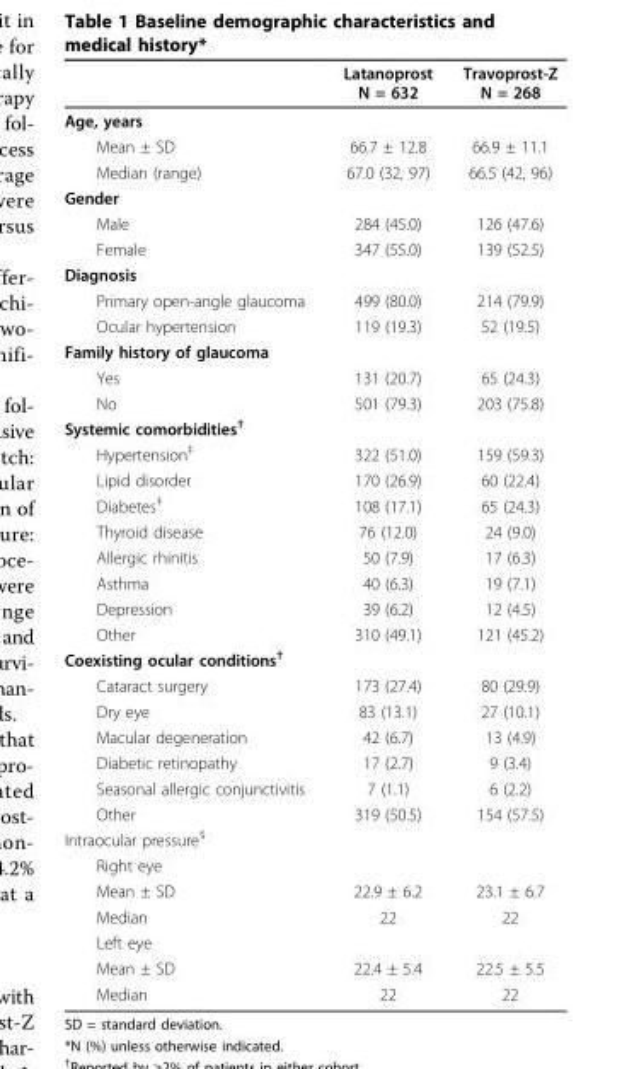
<table><thead><tr><td></td><td>Latanoprost N = 632</td><td>Travoprost-Z N = 268</td></tr></thead><tbody><tr><td colspan="3">Age, years</td></tr><tr><td>Mean ± SD</td><td>66.7 ± 12.8</td><td>66.9 ± 11.1</td></tr><tr><td>Median (range)</td><td>67.0 (32, 97)</td><td>66.5 (42, 96)</td></tr><tr><td colspan="3">Gender</td></tr><tr><td>Male</td><td>284 (45.0)</td><td>126 (47.6)</td></tr><tr><td>Female</td><td>347 (55.0)</td><td>139 (52.5)</td></tr><tr><td colspan="3">Diagnosis</td></tr><tr><td>Primary open-angle glaucoma</td><td>499 (80.0)</td><td>214 (79.9)</td></tr><tr><td>Ocular hypertension</td><td>119 (19.3)</td><td>52 (19.5)</td></tr><tr><td colspan="3">Family history of glaucoma</td></tr><tr><td>Yes</td><td>131 (20.7)</td><td>65 (24.3)</td></tr><tr><td>No</td><td>501 (79.3)</td><td>203 (75.8)</td></tr><tr><td colspan="3">Systemic comorbidities<sup>†</sup></td></tr><tr><td>Hypertension<sup>‡</sup></td><td>322 (51.0)</td><td>159 (59.3)</td></tr><tr><td>Lipid disorder</td><td>170 (26.9)</td><td>60 (22.4)</td></tr><tr><td>Diabetes<sup>‡</sup></td><td>108 (17.1)</td><td>65 (24.3)</td></tr><tr><td>Thyroid disease</td><td>76 (12.0)</td><td>24 (9.0)</td></tr><tr><td>Allergic rhinitis</td><td>50 (7.9)</td><td>17 (6.3)</td></tr><tr><td>Asthma</td><td>40 (6.3)</td><td>19 (7.1)</td></tr><tr><td>Depression</td><td>39 (6.2)</td><td>12 (4.5)</td></tr><tr><td>Other</td><td>310 (49.1)</td><td>121 (45.2)</td></tr><tr><td colspan="3">Coexisting ocular conditions<sup>†</sup></td></tr><tr><td>Cataract surgery</td><td>173 (27.4)</td><td>80 (29.9)</td></tr><tr><td>Dry eye</td><td>83 (13.1)</td><td>27 (10.1)</td></tr><tr><td>Macular degeneration</td><td>42 (6.7)</td><td>13 (4.9)</td></tr><tr><td>Diabetic retinopathy</td><td>17 (2.7)</td><td>9 (3.4)</td></tr><tr><td>Seasonal allergic conjunctivitis</td><td>7 (1.1)</td><td>6 (2.2)</td></tr><tr><td>Other</td><td>319 (50.5)</td><td>154 (57.5)</td></tr><tr><td colspan="3">Intraocular pressure<sup>§</sup></td></tr><tr><td colspan="3">Right eye</td></tr><tr><td>Mean ± SD</td><td>22.9 ± 6.2</td><td>23.1 ± 6.7</td></tr><tr><td>Median</td><td>22</td><td>22</td></tr><tr><td colspan="3">Left eye</td></tr><tr><td>Mean ± SD</td><td>22.4 ± 5.4</td><td>22.5 ± 5.5</td></tr><tr><td>Median</td><td>22</td><td>22</td></tr></tbody></table>